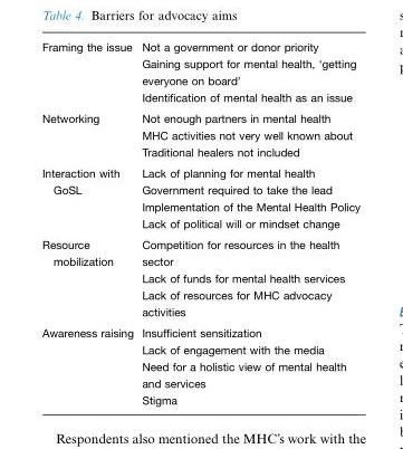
<table><tbody><tr><td>Framing the issue</td><td>Not a government or donor priority Gaining support for mental health, ‘getting everyone on board’ Identification of mental health as an issue</td></tr><tr><td>Networking</td><td>Not enough partners in mental health MHC activities not very well known about Traditional healers not included</td></tr><tr><td>Interaction with GoSL</td><td>Lack of planning for mental health Government required to take the lead Implementation of the Mental Health Policy Lack of political will or mindset change</td></tr><tr><td>Resource mobilization</td><td>Competition for resources in the health sector Lack of funds for mental health services Lack of resources for MHC advocacy activities</td></tr><tr><td>Awareness raising</td><td>Insufficient sensitization Lack of engagement with the media Need for a holistic view of mental health and services Stigma</td></tr></tbody></table>